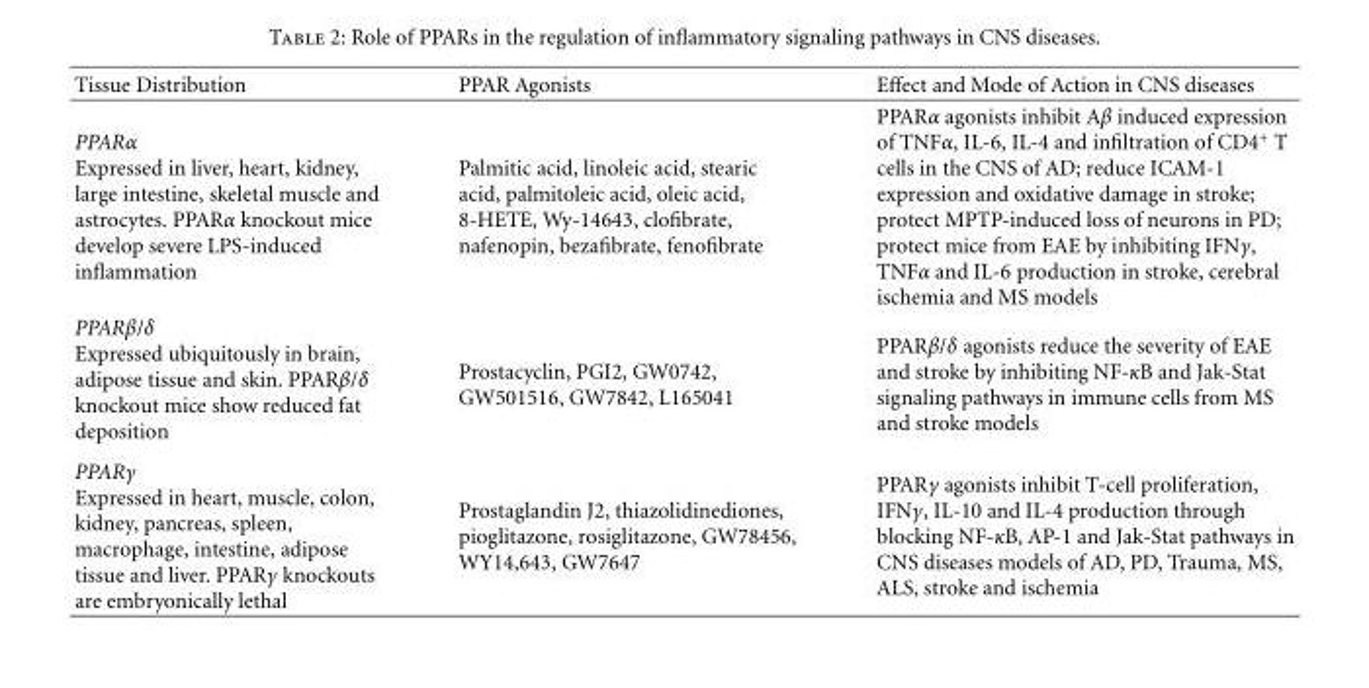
<table><thead><tr><td>Tissue Distribution</td><td>PPAR Agonists</td><td>Effect and Mode of Action in CNS diseases</td></tr></thead><tbody><tr><td>PPARα Expressed in liver, heart, kidney, large intestine, skeletal muscle and astrocytes. PPARα knockout mice develop severe LPS-induced inflammation</td><td>Palmitic acid, linoleic acid, stearic acid, palmitoleic acid, oleic acid, 8-HETE, Wy-14643, clofibrate, nafenopin, bezafibrate, fenofibrate</td><td>PPARα agonists inhibit Aβ induced expression of TNFα, IL-6, IL-4 and infiltration of CD4<sup>+</sup> T cells in the CNS of AD; reduce ICAM-1 expression and oxidative damage in stroke; protect MPTP-induced loss of neurons in PD; protect mice from EAE by inhibiting IFNγ, TNFα and IL-6 production in stroke, cerebral ischemia and MS models</td></tr><tr><td>PPARβ/δ Expressed ubiquitously in brain, adipose tissue and skin. PPARβ/δ knockout mice show reduced fat deposition</td><td>Prostacyclin, PGI2, GW0742, GW501516, GW7842, L165041</td><td>PPARβ/δ agonists reduce the severity of EAE and stroke by inhibiting NF-κB and Jak-Stat signaling pathways in immune cells from MS and stroke models</td></tr><tr><td>PPARγ Expressed in heart, muscle, colon, kidney, pancreas, spleen, macrophage, intestine, adipose tissue and liver. PPARγ knockouts are embryonically lethal</td><td>Prostaglandin J2, thiazolidinediones, pioglitazone, rosiglitazone, GW78456, WY14,643, GW7647</td><td>PPARγ agonists inhibit T-cell proliferation, IFNγ, IL-10 and IL-4 production through blocking NF-κB, AP-1 and Jak-Stat pathways in CNS diseases models of AD, PD, Trauma, MS, ALS, stroke and ischemia</td></tr></tbody></table>